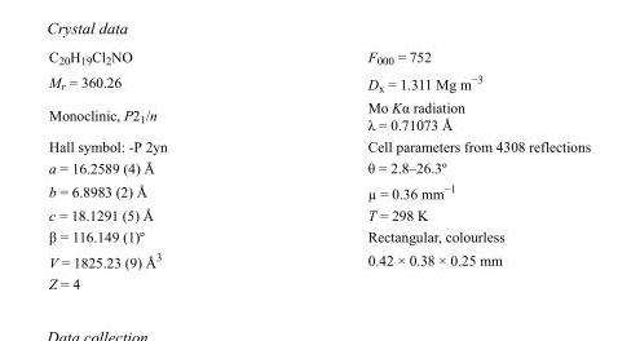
<table><tbody><tr><td>C<sub>20</sub>H<sub>19</sub>Cl<sub>2</sub>NO</td><td>F000 = 752</td></tr><tr><td>M<sub>r</sub> = 360.26</td><td>D<sub>x</sub> = 1.311 Mg m<sup>−3</sup></td></tr><tr><td>Monoclinic, P2<sub>1</sub>/n</td><td>Mo Kα radiation λ = 0.71073 Å</td></tr><tr><td>Hall symbol: -P 2yn</td><td>Cell parameters from 4308 reflections</td></tr><tr><td>a = 16.2589 (4) Å</td><td>θ = 2.8–26.3º</td></tr><tr><td>b = 6.8983 (2) Å</td><td>µ = 0.36 mm<sup>−1</sup></td></tr><tr><td>c = 18.1291 (5) Å</td><td>T = 298 K</td></tr><tr><td>β = 116.149 (1)º</td><td>Rectangular, colourless</td></tr><tr><td>V = 1825.23 (9) Å<sup>3</sup></td><td>0.42 × 0.38 × 0.25 mm</td></tr><tr><td>Z = 4</td><td></td></tr></tbody></table>